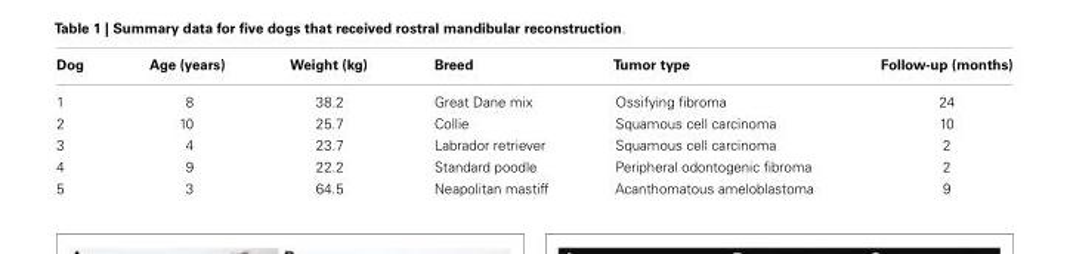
<table><thead><tr><td>Dog</td><td>Age (years)</td><td>Weight (kg)</td><td>Breed</td><td>Tumor type</td><td>Follow-up (months)</td></tr></thead><tbody><tr><td>1</td><td>8</td><td>38.2</td><td>Great Dane mix</td><td>Ossifying fibroma</td><td>24</td></tr><tr><td>2</td><td>10</td><td>25.7</td><td>Collie</td><td>Squamous cell carcinoma</td><td>10</td></tr><tr><td>3</td><td>4</td><td>23.7</td><td>Labrador retriever</td><td>Squamous cell carcinoma</td><td>2</td></tr><tr><td>4</td><td>9</td><td>22.2</td><td>Standard poodle</td><td>Peripheral odontogenic fibroma</td><td>2</td></tr><tr><td>5</td><td>3</td><td>64.5</td><td>Neapolitan mastiff</td><td>Acanthomatous ameloblastoma</td><td>9</td></tr></tbody></table>